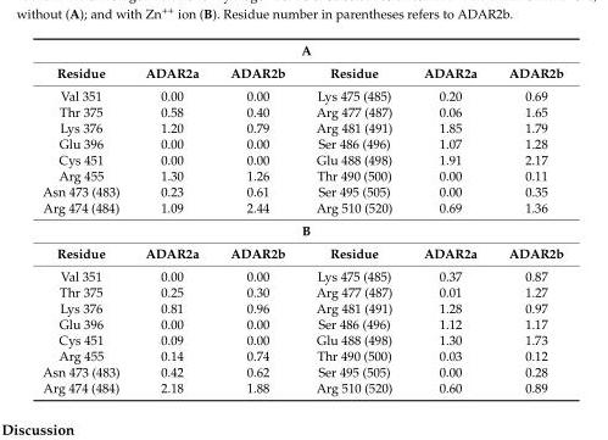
<table><tbody><tr><td colspan="6">A</td></tr><tr><td>Residue</td><td>ADAR2a</td><td>ADAR2b</td><td>Residue</td><td>ADAR2a</td><td>ADAR2b</td></tr><tr><td>Val 351</td><td>0.00</td><td>0.00</td><td>Lys 475 (485)</td><td>0.20</td><td>0.69</td></tr><tr><td>Thr 375</td><td>0.58</td><td>0.40</td><td>Arg 477 (487)</td><td>0.06</td><td>1.65</td></tr><tr><td>Lys 376</td><td>1.20</td><td>0.79</td><td>Arg 481 (491)</td><td>1.85</td><td>1.79</td></tr><tr><td>Glu 396</td><td>0.00</td><td>0.00</td><td>Ser 486 (496)</td><td>1.07</td><td>1.28</td></tr><tr><td>Cys 451</td><td>0.00</td><td>0.00</td><td>Glu 488 (498)</td><td>1.91</td><td>2.17</td></tr><tr><td>Arg 455</td><td>1.30</td><td>1.26</td><td>Thr 490 (500)</td><td>0.00</td><td>0.11</td></tr><tr><td>Asn 473 (483)</td><td>0.23</td><td>0.61</td><td>Ser 495 (505)</td><td>0.00</td><td>0.35</td></tr><tr><td>Arg 474 (484)</td><td>1.09</td><td>2.44</td><td>Arg 510 (520)</td><td>0.69</td><td>1.36</td></tr><tr><td colspan="6">B</td></tr><tr><td>Residue</td><td>ADAR2a</td><td>ADAR2b</td><td>Residue</td><td>ADAR2a</td><td>ADAR2b</td></tr><tr><td>Val 351</td><td>0.00</td><td>0.00</td><td>Lys 475 (485)</td><td>0.37</td><td>0.87</td></tr><tr><td>Thr 375</td><td>0.25</td><td>0.30</td><td>Arg 477 (487)</td><td>0.01</td><td>1.27</td></tr><tr><td>Lys 376</td><td>0.81</td><td>0.96</td><td>Arg 481 (491)</td><td>1.28</td><td>0.97</td></tr><tr><td>Glu 396</td><td>0.00</td><td>0.00</td><td>Ser 486 (496)</td><td>1.12</td><td>1.17</td></tr><tr><td>Cys 451</td><td>0.09</td><td>0.00</td><td>Glu 488 (498)</td><td>1.30</td><td>1.73</td></tr><tr><td>Arg 455</td><td>0.14</td><td>0.74</td><td>Thr 490 (500)</td><td>0.03</td><td>0.12</td></tr><tr><td>Asn 473 (483)</td><td>0.42</td><td>0.62</td><td>Ser 495 (505)</td><td>0.00</td><td>0.28</td></tr><tr><td>Arg 474 (484)</td><td>2.18</td><td>1.88</td><td>Arg 510 (520)</td><td>0.60</td><td>0.89</td></tr></tbody></table>